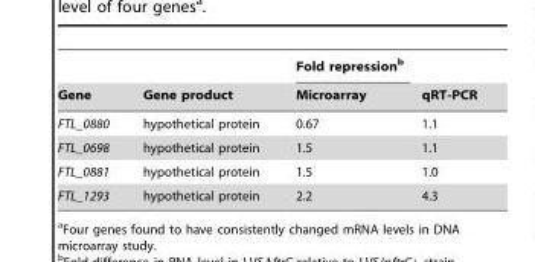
<table><thead><tr><td rowspan="2">Gene</td><td rowspan="2">Gene product</td><td rowspan="2">Fold repression<sup>b</sup> Microarray</td><td rowspan="2">qRT-PCR</td></tr><tr></tr></thead><tbody><tr><td>FTL_0880</td><td>hypothetical protein</td><td>0.67</td><td>1.1</td></tr><tr><td>FTL_0698</td><td>hypothetical protein</td><td>1.5</td><td>1.1</td></tr><tr><td>FTL_0881</td><td>hypothetical protein</td><td>1.5</td><td>1.0</td></tr><tr><td>FTL_1293</td><td>hypothetical protein</td><td>2.2</td><td>4.3</td></tr></tbody></table>